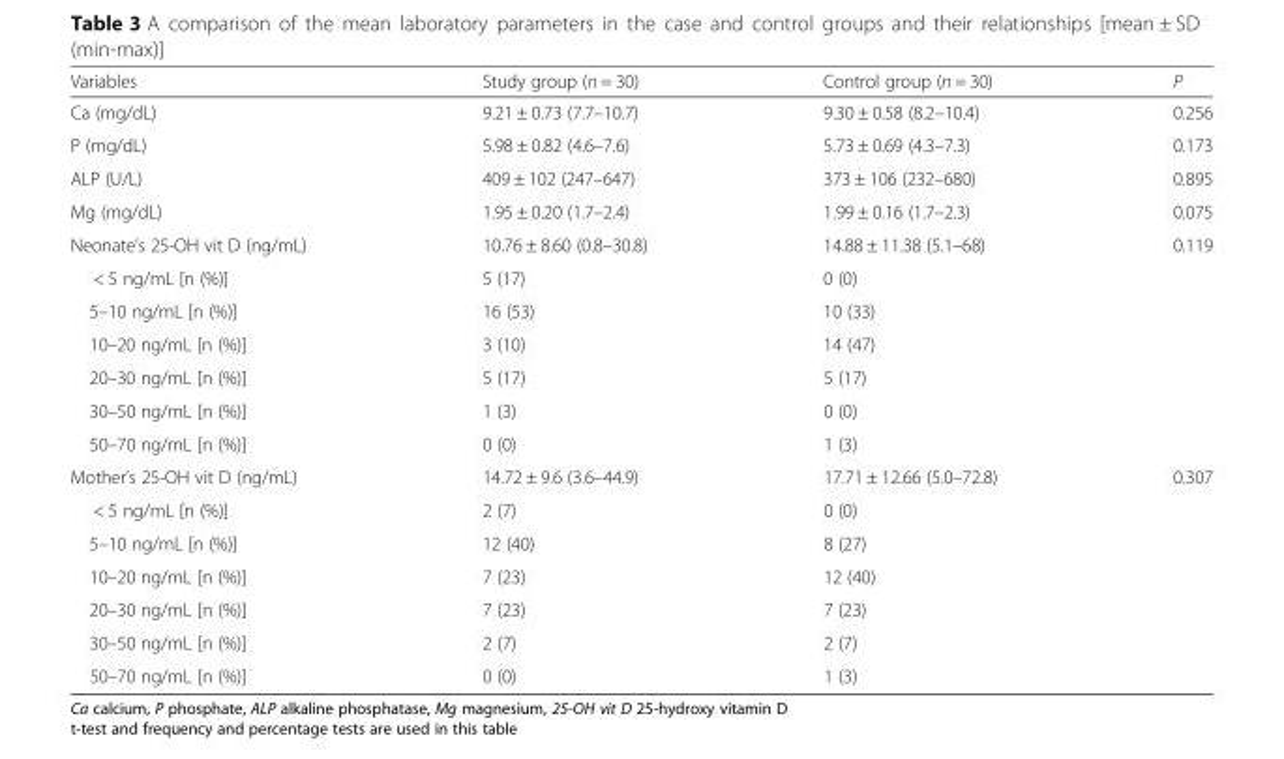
<table><thead><tr><td>Variables</td><td>Study group (n = 30)</td><td>Control group (n = 30)</td><td>P</td></tr></thead><tbody><tr><td>Ca (mg/dL)</td><td>9.21 ± 0.73 (7.7–10.7)</td><td>9.30 ± 0.58 (8.2–10.4)</td><td>0.256</td></tr><tr><td>P (mg/dL)</td><td>5.98 ± 0.82 (4.6–7.6)</td><td>5.73 ± 0.69 (4.3–7.3)</td><td>0.173</td></tr><tr><td>ALP (U/L)</td><td>409 ± 102 (247–647)</td><td>373 ± 106 (232–680)</td><td>0.895</td></tr><tr><td>Mg (mg/dL)</td><td>1.95 ± 0.20 (1.7–2.4)</td><td>1.99 ± 0.16 (1.7–2.3)</td><td>0.075</td></tr><tr><td>Neonate’s 25-OH vit D (ng/mL)</td><td>10.76 ± 8.60 (0.8–30.8)</td><td>14.88 ± 11.38 (5.1–68)</td><td>0.119</td></tr><tr><td>&lt; 5 ng/mL [n (%)]</td><td>5 (17)</td><td>0 (0)</td><td></td></tr><tr><td>5–10 ng/mL [n (%)]</td><td>16 (53)</td><td>10 (33)</td><td></td></tr><tr><td>10–20 ng/mL [n (%)]</td><td>3 (10)</td><td>14 (47)</td><td></td></tr><tr><td>20–30 ng/mL [n (%)]</td><td>5 (17)</td><td>5 (17)</td><td></td></tr><tr><td>30–50 ng/mL [n (%)]</td><td>1 (3)</td><td>0 (0)</td><td></td></tr><tr><td>50–70 ng/mL [n (%)]</td><td>0 (0)</td><td>1 (3)</td><td></td></tr><tr><td>Mother’s 25-OH vit D (ng/mL)</td><td>14.72 ± 9.6 (3.6–44.9)</td><td>17.71 ± 12.66 (5.0–72.8)</td><td>0.307</td></tr><tr><td>&lt; 5 ng/mL [n (%)]</td><td>2 (7)</td><td>0 (0)</td><td></td></tr><tr><td>5–10 ng/mL [n (%)]</td><td>12 (40)</td><td>8 (27)</td><td></td></tr><tr><td>10–20 ng/mL [n (%)]</td><td>7 (23)</td><td>12 (40)</td><td></td></tr><tr><td>20–30 ng/mL [n (%)]</td><td>7 (23)</td><td>7 (23)</td><td></td></tr><tr><td>30–50 ng/mL [n (%)]</td><td>2 (7)</td><td>2 (7)</td><td></td></tr><tr><td>50–70 ng/mL [n (%)]</td><td>0 (0)</td><td>1 (3)</td><td></td></tr></tbody></table>